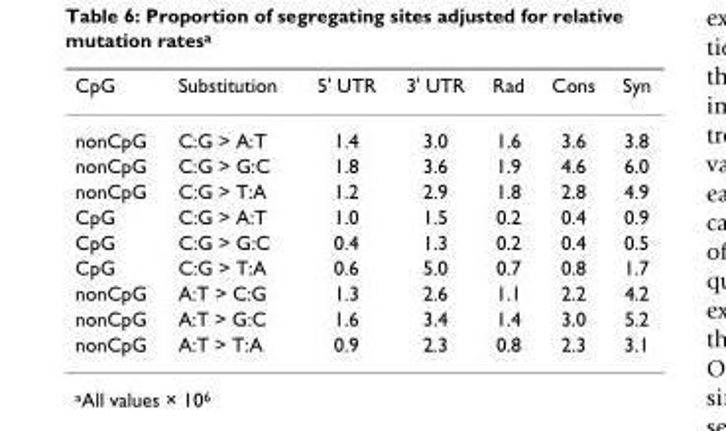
<table><thead><tr><td>CpG</td><td>Substitution</td><td>5&#x27; UTR</td><td>3&#x27; UTR</td><td>Rad</td><td>Cons</td><td>Syn</td></tr></thead><tbody><tr><td>nonCpG</td><td>C:G &gt; A:T</td><td>1.4</td><td>3.0</td><td>1.6</td><td>3.6</td><td>3.8</td></tr><tr><td>nonCpG</td><td>C:G &gt; G:C</td><td>1.8</td><td>3.6</td><td>1.9</td><td>4.6</td><td>6.0</td></tr><tr><td>nonCpG</td><td>C:G &gt; T:A</td><td>1.2</td><td>2.9</td><td>1.8</td><td>2.8</td><td>4.9</td></tr><tr><td>CpG</td><td>C:G &gt; A:T</td><td>1.0</td><td>1.5</td><td>0.2</td><td>0.4</td><td>0.9</td></tr><tr><td>CpG</td><td>C:G &gt; G:C</td><td>0.4</td><td>1.3</td><td>0.2</td><td>0.4</td><td>0.5</td></tr><tr><td>CpG</td><td>C:G &gt; T:A</td><td>0.6</td><td>5.0</td><td>0.7</td><td>0.8</td><td>1.7</td></tr><tr><td>nonCpG</td><td>A:T &gt; C:G</td><td>1.3</td><td>2.6</td><td>1.1</td><td>2.2</td><td>4.2</td></tr><tr><td>nonCpG</td><td>A:T &gt; G:C</td><td>1.6</td><td>3.4</td><td>1.4</td><td>3.0</td><td>5.2</td></tr><tr><td>nonCpG</td><td>A:T &gt; T:A</td><td>0.9</td><td>2.3</td><td>0.8</td><td>2.3</td><td>3.1</td></tr></tbody></table>